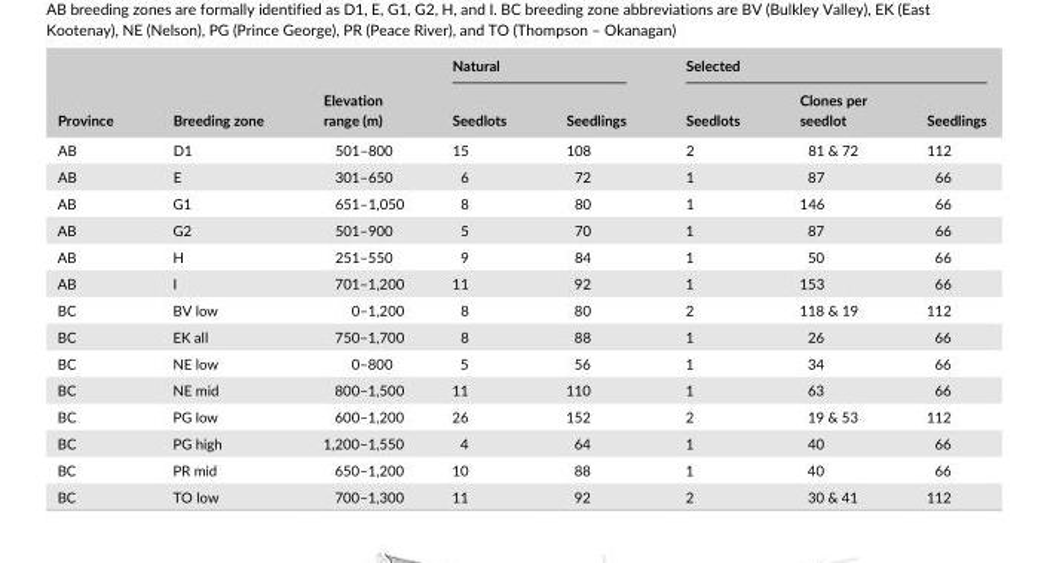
<table><thead><tr><td rowspan="2">Province</td><td rowspan="2">Breeding zone</td><td rowspan="2">Elevation range (m)</td><td colspan="2">Natural</td><td colspan="3">Selected</td></tr><tr><td>Seedlots</td><td>Seedlings</td><td>Seedlots</td><td>Clones per seedlot</td><td>Seedlings</td></tr></thead><tbody><tr><td>AB</td><td>D1</td><td>501–800</td><td>15</td><td>108</td><td>2</td><td>81 &amp; 72</td><td>112</td></tr><tr><td>AB</td><td>E</td><td>301–650</td><td>6</td><td>72</td><td>1</td><td>87</td><td>66</td></tr><tr><td>AB</td><td>G1</td><td>651–1,050</td><td>8</td><td>80</td><td>1</td><td>146</td><td>66</td></tr><tr><td>AB</td><td>G2</td><td>501–900</td><td>5</td><td>70</td><td>1</td><td>87</td><td>66</td></tr><tr><td>AB</td><td>H</td><td>251–550</td><td>9</td><td>84</td><td>1</td><td>50</td><td>66</td></tr><tr><td>AB</td><td>I</td><td>701–1,200</td><td>11</td><td>92</td><td>1</td><td>153</td><td>66</td></tr><tr><td>BC</td><td>BV low</td><td>0–1,200</td><td>8</td><td>80</td><td>2</td><td>118 &amp; 19</td><td>112</td></tr><tr><td>BC</td><td>EK all</td><td>750–1,700</td><td>8</td><td>88</td><td>1</td><td>26</td><td>66</td></tr><tr><td>BC</td><td>NE low</td><td>0–800</td><td>5</td><td>56</td><td>1</td><td>34</td><td>66</td></tr><tr><td>BC</td><td>NE mid</td><td>800–1,500</td><td>11</td><td>110</td><td>1</td><td>63</td><td>66</td></tr><tr><td>BC</td><td>PG low</td><td>600–1,200</td><td>26</td><td>152</td><td>2</td><td>19 &amp; 53</td><td>112</td></tr><tr><td>BC</td><td>PG high</td><td>1,200–1,550</td><td>4</td><td>64</td><td>1</td><td>40</td><td>66</td></tr><tr><td>BC</td><td>PR mid</td><td>650–1,200</td><td>10</td><td>88</td><td>1</td><td>40</td><td>66</td></tr><tr><td>BC</td><td>TO low</td><td>700–1,300</td><td>11</td><td>92</td><td>2</td><td>30 &amp; 41</td><td>112</td></tr></tbody></table>